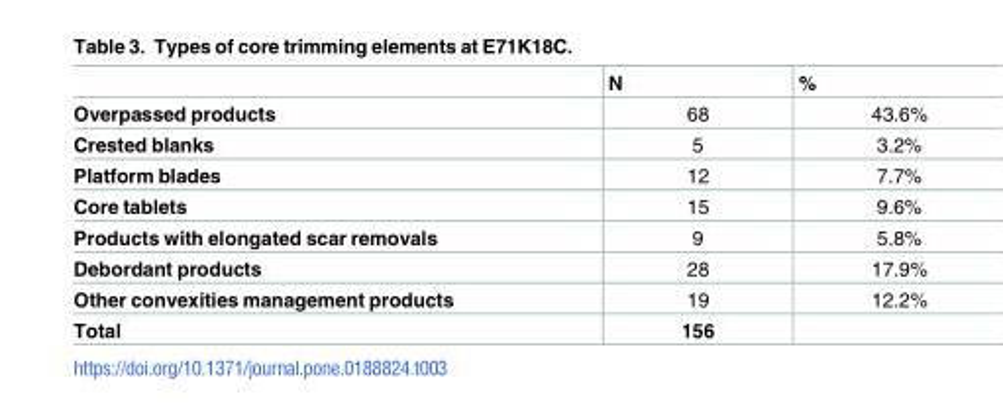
<table><thead><tr><td></td><td>N</td><td>%</td></tr></thead><tbody><tr><td>Overpassed products</td><td>68</td><td>43.6%</td></tr><tr><td>Crested blanks</td><td>5</td><td>3.2%</td></tr><tr><td>Platform blades</td><td>12</td><td>7.7%</td></tr><tr><td>Core tablets</td><td>15</td><td>9.6%</td></tr><tr><td>Products with elongated scar removals</td><td>9</td><td>5.8%</td></tr><tr><td>Debordant products</td><td>28</td><td>17.9%</td></tr><tr><td>Other convexities management products</td><td>19</td><td>12.2%</td></tr><tr><td>Total</td><td>156</td><td></td></tr></tbody></table>